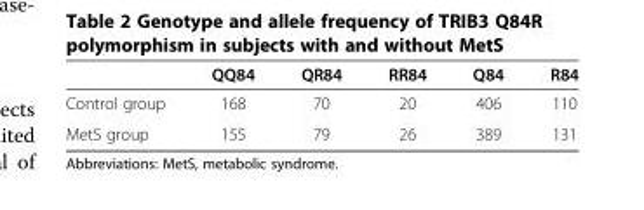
<table><thead><tr><td></td><td>QQ84</td><td>QR84</td><td>RR84</td><td>Q84</td><td>R84</td></tr></thead><tbody><tr><td>Control group</td><td>168</td><td>70</td><td>20</td><td>406</td><td>110</td></tr><tr><td>MetS group</td><td>155</td><td>79</td><td>26</td><td>389</td><td>131</td></tr></tbody></table>